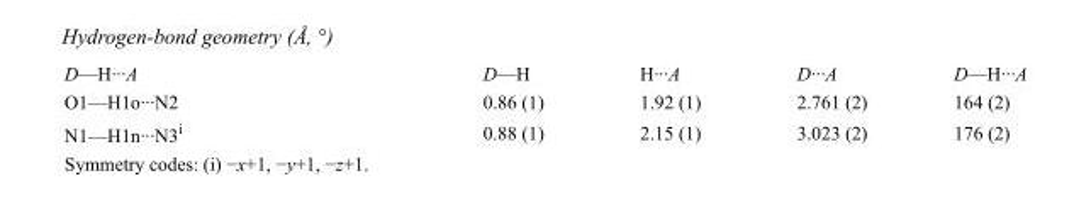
<table><tbody><tr><td>D—H···A</td><td>D—H</td><td>H···A</td><td>D···A</td><td>D—H···A</td></tr><tr><td>O1—H1o···N2</td><td>0.86 (1)</td><td>1.92 (1)</td><td>2.761 (2)</td><td>164 (2)</td></tr><tr><td>N1—H1n···N3<sup>i</sup></td><td>0.88 (1)</td><td>2.15 (1)</td><td>3.023 (2)</td><td>176 (2)</td></tr></tbody></table>